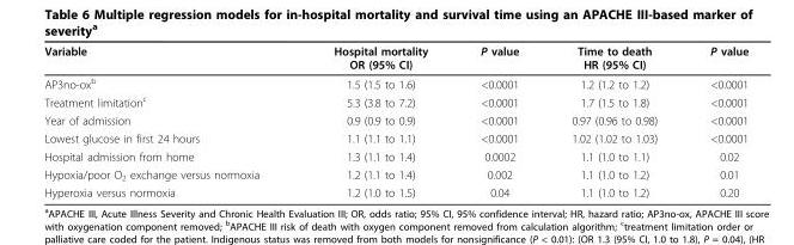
<table><thead><tr><td>Variable</td><td>Hospital mortality OR (95% CI)</td><td>P value</td><td>Time to death HR (95% CI)</td><td>P value</td></tr></thead><tbody><tr><td>AP3no-ox<sup>b</sup></td><td>1.5 (1.5 to 1.6)</td><td>&lt;0.0001</td><td>1.2 (1.2 to 1.2)</td><td>&lt;0.0001</td></tr><tr><td>Treatment limitation<sup>c</sup></td><td>5.3 (3.8 to 7.2)</td><td>&lt;0.0001</td><td>1.7 (1.5 to 1.8)</td><td>&lt;0.0001</td></tr><tr><td>Year of admission</td><td>0.9 (0.9 to 0.9)</td><td>&lt;0.0001</td><td>0.97 (0.96 to 0.98)</td><td>&lt;0.0001</td></tr><tr><td>Lowest glucose in first 24 hours</td><td>1.1 (1.1 to 1.1)</td><td>&lt;0.0001</td><td>1.02 (1.02 to 1.03)</td><td>&lt;0.0001</td></tr><tr><td>Hospital admission from home</td><td>1.3 (1.1 to 1.4)</td><td>0.0002</td><td>1.1 (1.0 to 1.1)</td><td>0.02</td></tr><tr><td>Hypoxia/poor O<sub>2</sub> exchange versus normoxia</td><td>1.2 (1.1 to 1.4)</td><td>0.002</td><td>1.1 (1.0 to 1.2)</td><td>0.01</td></tr><tr><td>Hyperoxia versus normoxia</td><td>1.2 (1.0 to 1.5)</td><td>0.04</td><td>1.1 (1.0 to 1.2)</td><td>0.20</td></tr></tbody></table>